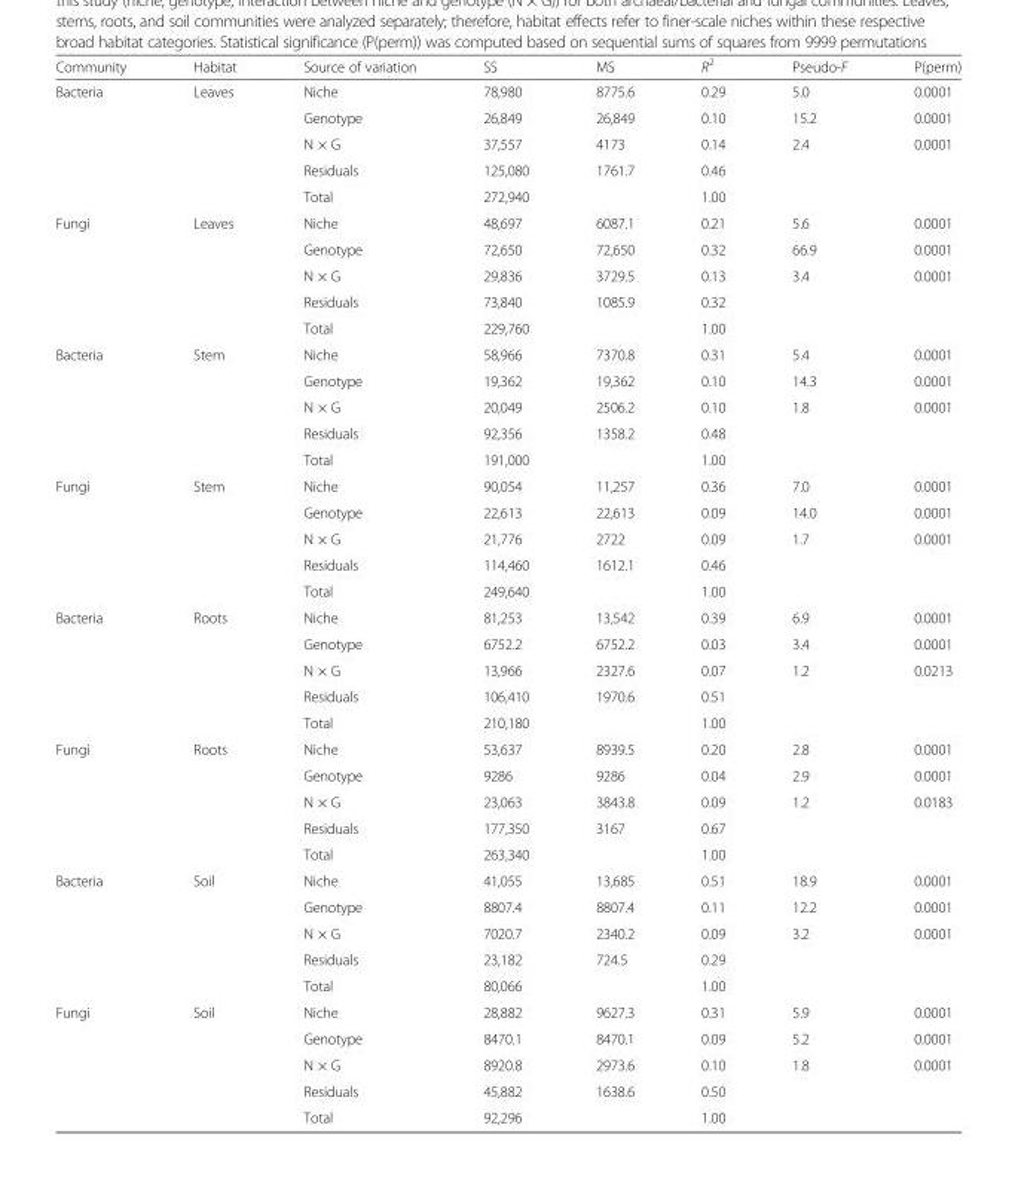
<table><thead><tr><td>Community</td><td>Habitat</td><td>Source of variation</td><td>SS</td><td>MS</td><td>R<sup>2</sup></td><td>Pseudo-F</td><td>P(perm)</td></tr></thead><tbody><tr><td rowspan="5">Bacteria</td><td rowspan="5">Leaves</td><td>Niche</td><td>78,980</td><td>8775.6</td><td>0.29</td><td>5.0</td><td>0.0001</td></tr><tr><td>Genotype</td><td>26,849</td><td>26,849</td><td>0.10</td><td>15.2</td><td>0.0001</td></tr><tr><td>N × G</td><td>37,557</td><td>4173</td><td>0.14</td><td>2.4</td><td>0.0001</td></tr><tr><td>Residuals</td><td>125,080</td><td>1761.7</td><td>0.46</td><td></td><td></td></tr><tr><td>Total</td><td>272,940</td><td></td><td>1.00</td><td></td><td></td></tr><tr><td rowspan="5">Fungi</td><td rowspan="5">Leaves</td><td>Niche</td><td>48,697</td><td>6087.1</td><td>0.21</td><td>5.6</td><td>0.0001</td></tr><tr><td>Genotype</td><td>72,650</td><td>72,650</td><td>0.32</td><td>66.9</td><td>0.0001</td></tr><tr><td>N × G</td><td>29,836</td><td>3729.5</td><td>0.13</td><td>3.4</td><td>0.0001</td></tr><tr><td>Residuals</td><td>73,840</td><td>1085.9</td><td>0.32</td><td></td><td></td></tr><tr><td>Total</td><td>229,760</td><td></td><td>1.00</td><td></td><td></td></tr><tr><td rowspan="5">Bacteria</td><td rowspan="5">Stem</td><td>Niche</td><td>58,966</td><td>7370.8</td><td>0.31</td><td>5.4</td><td>0.0001</td></tr><tr><td>Genotype</td><td>19,362</td><td>19,362</td><td>0.10</td><td>14.3</td><td>0.0001</td></tr><tr><td>N × G</td><td>20,049</td><td>2506.2</td><td>0.10</td><td>1.8</td><td>0.0001</td></tr><tr><td>Residuals</td><td>92,356</td><td>1358.2</td><td>0.48</td><td></td><td></td></tr><tr><td>Total</td><td>191,000</td><td></td><td>1.00</td><td></td><td></td></tr><tr><td rowspan="5">Fungi</td><td rowspan="5">Stem</td><td>Niche</td><td>90,054</td><td>11,257</td><td>0.36</td><td>7.0</td><td>0.0001</td></tr><tr><td>Genotype</td><td>22,613</td><td>22,613</td><td>0.09</td><td>14.0</td><td>0.0001</td></tr><tr><td>N × G</td><td>21,776</td><td>2722</td><td>0.09</td><td>1.7</td><td>0.0001</td></tr><tr><td>Residuals</td><td>114,460</td><td>1612.1</td><td>0.46</td><td></td><td></td></tr><tr><td>Total</td><td>249,640</td><td></td><td>1.00</td><td></td><td></td></tr><tr><td rowspan="5">Bacteria</td><td rowspan="5">Roots</td><td>Niche</td><td>81,253</td><td>13,542</td><td>0.39</td><td>6.9</td><td>0.0001</td></tr><tr><td>Genotype</td><td>6752.2</td><td>6752.2</td><td>0.03</td><td>3.4</td><td>0.0001</td></tr><tr><td>N × G</td><td>13,966</td><td>2327.6</td><td>0.07</td><td>1.2</td><td>0.0213</td></tr><tr><td>Residuals</td><td>106,410</td><td>1970.6</td><td>0.51</td><td></td><td></td></tr><tr><td>Total</td><td>210,180</td><td></td><td>1.00</td><td></td><td></td></tr><tr><td rowspan="5">Fungi</td><td rowspan="5">Roots</td><td>Niche</td><td>53,637</td><td>8939.5</td><td>0.20</td><td>2.8</td><td>0.0001</td></tr><tr><td>Genotype</td><td>9286</td><td>9286</td><td>0.04</td><td>2.9</td><td>0.0001</td></tr><tr><td>N × G</td><td>23,063</td><td>3843.8</td><td>0.09</td><td>1.2</td><td>0.0183</td></tr><tr><td>Residuals</td><td>177,350</td><td>3167</td><td>0.67</td><td></td><td></td></tr><tr><td>Total</td><td>263,340</td><td></td><td>1.00</td><td></td><td></td></tr><tr><td rowspan="5">Bacteria</td><td rowspan="5">Soil</td><td>Niche</td><td>41,055</td><td>13,685</td><td>0.51</td><td>18.9</td><td>0.0001</td></tr><tr><td>Genotype</td><td>8807.4</td><td>8807.4</td><td>0.11</td><td>12.2</td><td>0.0001</td></tr><tr><td>N × G</td><td>7020.7</td><td>2340.2</td><td>0.09</td><td>3.2</td><td>0.0001</td></tr><tr><td>Residuals</td><td>23,182</td><td>724.5</td><td>0.29</td><td></td><td></td></tr><tr><td>Total</td><td>80,066</td><td></td><td>1.00</td><td></td><td></td></tr><tr><td rowspan="5">Fungi</td><td rowspan="5">Soil</td><td>Niche</td><td>28,882</td><td>9627.3</td><td>0.31</td><td>5.9</td><td>0.0001</td></tr><tr><td>Genotype</td><td>8470.1</td><td>8470.1</td><td>0.09</td><td>5.2</td><td>0.0001</td></tr><tr><td>N × G</td><td>8920.8</td><td>2973.6</td><td>0.10</td><td>1.8</td><td>0.0001</td></tr><tr><td>Residuals</td><td>45,882</td><td>1638.6</td><td>0.50</td><td></td><td></td></tr><tr><td>Total</td><td>92,296</td><td></td><td>1.00</td><td></td><td></td></tr></tbody></table>